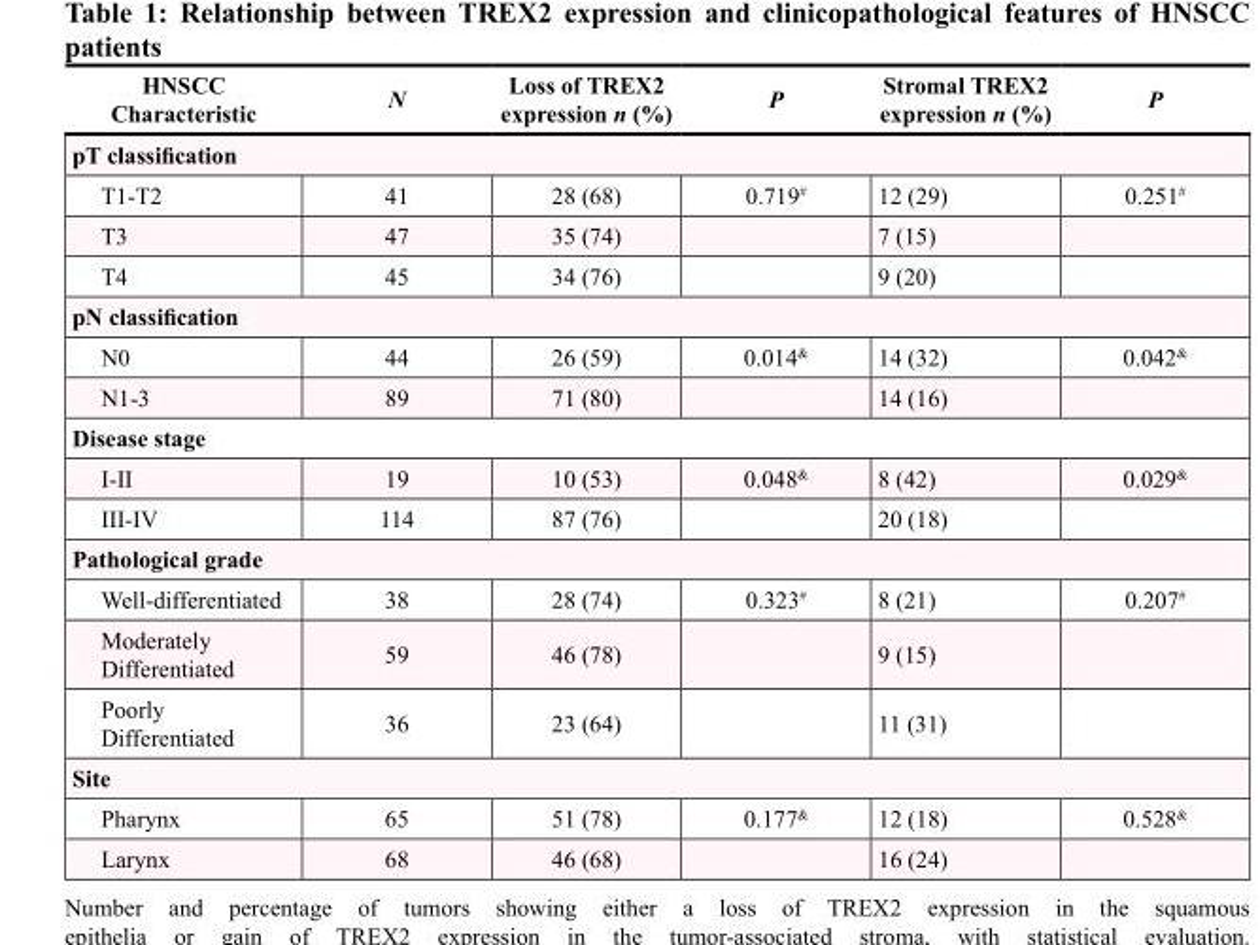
<table><thead><tr><td>HNSCC Characteristic</td><td>N</td><td>Loss of TREX2 expression n (%)</td><td>P</td><td>Stromal TREX2 expression n (%)</td><td>P</td></tr></thead><tbody><tr><td colspan="6">pT classification</td></tr><tr><td>T1-T2</td><td>41</td><td>28 (68)</td><td>0.719<sup>#</sup></td><td>12 (29)</td><td>0.251<sup>#</sup></td></tr><tr><td>T3</td><td>47</td><td>35 (74)</td><td></td><td>7 (15)</td><td></td></tr><tr><td>T4</td><td>45</td><td>34 (76)</td><td></td><td>9 (20)</td><td></td></tr><tr><td colspan="6">pN classification</td></tr><tr><td>N0</td><td>44</td><td>26 (59)</td><td>0.014<sup>&amp;</sup></td><td>14 (32)</td><td>0.042<sup>&amp;</sup></td></tr><tr><td>N1-3</td><td>89</td><td>71 (80)</td><td></td><td>14 (16)</td><td></td></tr><tr><td colspan="6">Disease stage</td></tr><tr><td>I-II</td><td>19</td><td>10 (53)</td><td>0.048<sup>&amp;</sup></td><td>8 (42)</td><td>0.029<sup>&amp;</sup></td></tr><tr><td>III-IV</td><td>114</td><td>87 (76)</td><td></td><td>20 (18)</td><td></td></tr><tr><td colspan="6">Pathological grade</td></tr><tr><td>Well-differentiated</td><td>38</td><td>28 (74)</td><td>0.323<sup>#</sup></td><td>8 (21)</td><td>0.207<sup>#</sup></td></tr><tr><td>Moderately Differentiated</td><td>59</td><td>46 (78)</td><td></td><td>9 (15)</td><td></td></tr><tr><td>Poorly Differentiated</td><td>36</td><td>23 (64)</td><td></td><td>11 (31)</td><td></td></tr><tr><td colspan="6">Site</td></tr><tr><td>Pharynx</td><td>65</td><td>51 (78)</td><td>0.177<sup>&amp;</sup></td><td>12 (18)</td><td>0.528<sup>&amp;</sup></td></tr><tr><td>Larynx</td><td>68</td><td>46 (68)</td><td></td><td>16 (24)</td><td></td></tr></tbody></table>